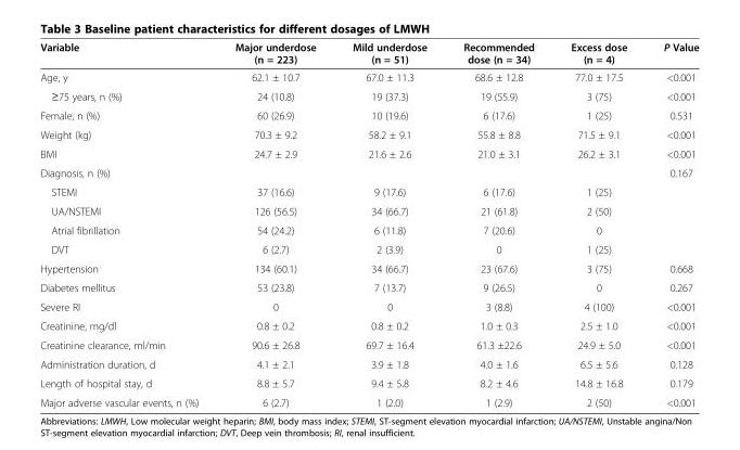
<table><thead><tr><td>Variable</td><td>Major underdose (n = 223)</td><td>Mild underdose (n = 51)</td><td>Recommended dose (n = 34)</td><td>Excess dose (n = 4)</td><td>P Value</td></tr></thead><tbody><tr><td>Age, y</td><td>62.1 ± 10.7</td><td>67.0 ± 11.3</td><td>68.6 ± 12.8</td><td>77.0 ± 17.5</td><td>&lt;0.001</td></tr><tr><td>≥75 years, n (%)</td><td>24 (10.8)</td><td>19 (37.3)</td><td>19 (55.9)</td><td>3 (75)</td><td>&lt;0.001</td></tr><tr><td>Female, n (%)</td><td>60 (26.9)</td><td>10 (19.6)</td><td>6 (17.6)</td><td>1 (25)</td><td>0.531</td></tr><tr><td>Weight (kg)</td><td>70.3 ± 9.2</td><td>58.2 ± 9.1</td><td>55.8 ± 8.8</td><td>71.5 ± 9.1</td><td>&lt;0.001</td></tr><tr><td>BMI</td><td>24.7 ± 2.9</td><td>21.6 ± 2.6</td><td>21.0 ± 3.1</td><td>26.2 ± 3.1</td><td>&lt;0.001</td></tr><tr><td>Diagnosis, n (%)</td><td></td><td></td><td></td><td></td><td>0.167</td></tr><tr><td>STEMI</td><td>37 (16.6)</td><td>9 (17.6)</td><td>6 (17.6)</td><td>1 (25)</td><td></td></tr><tr><td>UA/NSTEMI</td><td>126 (56.5)</td><td>34 (66.7)</td><td>21 (61.8)</td><td>2 (50)</td><td></td></tr><tr><td>Atrial fibrillation</td><td>54 (24.2)</td><td>6 (11.8)</td><td>7 (20.6)</td><td>0</td><td></td></tr><tr><td>DVT</td><td>6 (2.7)</td><td>2 (3.9)</td><td>0</td><td>1 (25)</td><td></td></tr><tr><td>Hypertension</td><td>134 (60.1)</td><td>34 (66.7)</td><td>23 (67.6)</td><td>3 (75)</td><td>0.668</td></tr><tr><td>Diabetes mellitus</td><td>53 (23.8)</td><td>7 (13.7)</td><td>9 (26.5)</td><td>0</td><td>0.267</td></tr><tr><td>Severe RI</td><td>0</td><td>0</td><td>3 (8.8)</td><td>4 (100)</td><td>&lt;0.001</td></tr><tr><td>Creatinine, mg/dl</td><td>0.8 ± 0.2</td><td>0.8 ± 0.2</td><td>1.0 ± 0.3</td><td>2.5 ± 1.0</td><td>&lt;0.001</td></tr><tr><td>Creatinine clearance, ml/min</td><td>90.6 ± 26.8</td><td>69.7 ± 16.4</td><td>61.3 ±22.6</td><td>24.9 ± 5.0</td><td>&lt;0.001</td></tr><tr><td>Administration duration, d</td><td>4.1 ± 2.1</td><td>3.9 ± 1.8</td><td>4.0 ± 1.6</td><td>6.5 ± 5.6</td><td>0.128</td></tr><tr><td>Length of hospital stay, d</td><td>8.8 ± 5.7</td><td>9.4 ± 5.8</td><td>8.2 ± 4.6</td><td>14.8 ± 16.8</td><td>0.179</td></tr><tr><td>Major adverse vascular events, n (%)</td><td>6 (2.7)</td><td>1 (2.0)</td><td>1 (2.9)</td><td>2 (50)</td><td>&lt;0.001</td></tr></tbody></table>